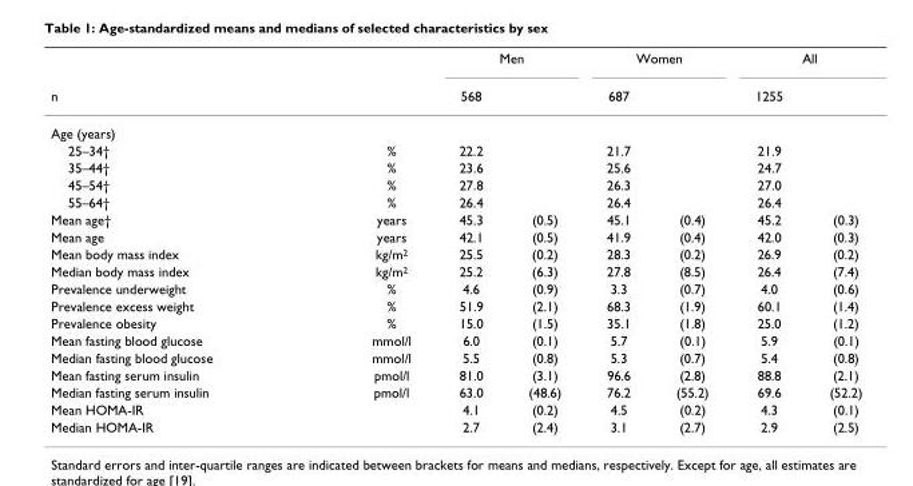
<table><thead><tr><td rowspan="2">n</td><td rowspan="2"></td><td colspan="2">Men</td><td colspan="2">Women</td><td colspan="2">All</td></tr><tr><td>568</td><td></td><td>687</td><td></td><td>1255</td><td></td></tr></thead><tbody><tr><td colspan="8">Age (years)</td></tr><tr><td>25–34†</td><td>%</td><td>22.2</td><td></td><td>21.7</td><td></td><td>21.9</td><td></td></tr><tr><td>35–44†</td><td>%</td><td>23.6</td><td></td><td>25.6</td><td></td><td>24.7</td><td></td></tr><tr><td>45–54†</td><td>%</td><td>27.8</td><td></td><td>26.3</td><td></td><td>27.0</td><td></td></tr><tr><td>55–64†</td><td>%</td><td>26.4</td><td></td><td>26.4</td><td></td><td>26.4</td><td></td></tr><tr><td>Mean age†</td><td>years</td><td>45.3</td><td>(0.5)</td><td>45.1</td><td>(0.4)</td><td>45.2</td><td>(0.3)</td></tr><tr><td>Mean age</td><td>years</td><td>42.1</td><td>(0.5)</td><td>41.9</td><td>(0.4)</td><td>42.0</td><td>(0.3)</td></tr><tr><td>Mean body mass index</td><td>kg/m<sup>2</sup></td><td>25.5</td><td>(0.2)</td><td>28.3</td><td>(0.2)</td><td>26.9</td><td>(0.2)</td></tr><tr><td>Median body mass index</td><td>kg/m<sup>2</sup></td><td>25.2</td><td>(6.3)</td><td>27.8</td><td>(8.5)</td><td>26.4</td><td>(7.4)</td></tr><tr><td>Prevalence underweight</td><td>%</td><td>4.6</td><td>(0.9)</td><td>3.3</td><td>(0.7)</td><td>4.0</td><td>(0.6)</td></tr><tr><td>Prevalence excess weight</td><td>%</td><td>51.9</td><td>(2.1)</td><td>68.3</td><td>(1.9)</td><td>60.1</td><td>(1.4)</td></tr><tr><td>Prevalence obesity</td><td>%</td><td>15.0</td><td>(1.5)</td><td>35.1</td><td>(1.8)</td><td>25.0</td><td>(1.2)</td></tr><tr><td>Mean fasting blood glucose</td><td>mmol/l</td><td>6.0</td><td>(0.1)</td><td>5.7</td><td>(0.1)</td><td>5.9</td><td>(0.1)</td></tr><tr><td>Median fasting blood glucose</td><td>mmol/l</td><td>5.5</td><td>(0.8)</td><td>5.3</td><td>(0.7)</td><td>5.4</td><td>(0.8)</td></tr><tr><td>Mean fasting serum insulin</td><td>pmol/l</td><td>81.0</td><td>(3.1)</td><td>96.6</td><td>(2.8)</td><td>88.8</td><td>(2.1)</td></tr><tr><td>Median fasting serum insulin</td><td>pmol/l</td><td>63.0</td><td>(48.6)</td><td>76.2</td><td>(55.2)</td><td>69.6</td><td>(52.2)</td></tr><tr><td>Mean HOMA-IR</td><td></td><td>4.1</td><td>(0.2)</td><td>4.5</td><td>(0.2)</td><td>4.3</td><td>(0.1)</td></tr><tr><td>Median HOMA-IR</td><td></td><td>2.7</td><td>(2.4)</td><td>3.1</td><td>(2.7)</td><td>2.9</td><td>(2.5)</td></tr></tbody></table>